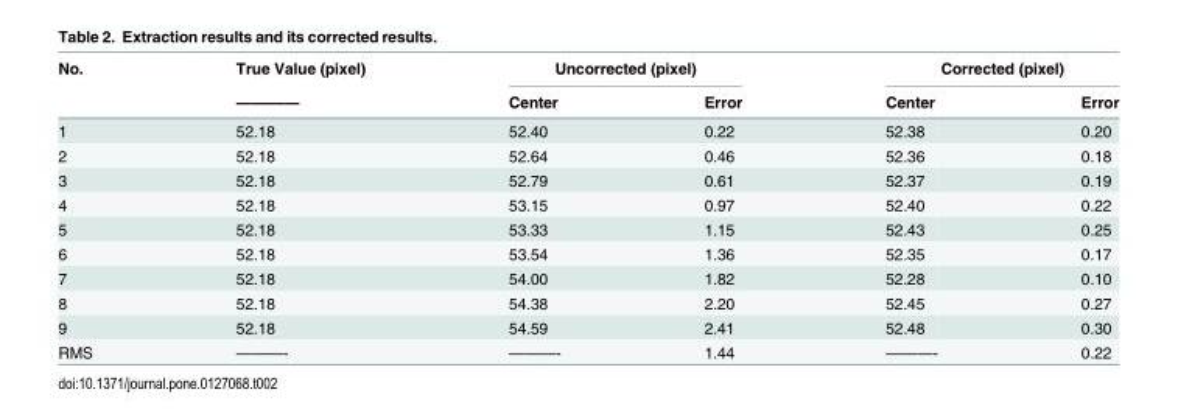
<table><thead><tr><td rowspan="2">No.</td><td rowspan="2">True Value (pixel) ————</td><td colspan="2">Uncorrected (pixel)</td><td colspan="2">Corrected (pixel)</td></tr><tr><td>Center</td><td>Error</td><td>Center</td><td>Error</td></tr></thead><tbody><tr><td>1</td><td>52.18</td><td>52.40</td><td>0.22</td><td>52.38</td><td>0.20</td></tr><tr><td>2</td><td>52.18</td><td>52.64</td><td>0.46</td><td>52.36</td><td>0.18</td></tr><tr><td>3</td><td>52.18</td><td>52.79</td><td>0.61</td><td>52.37</td><td>0.19</td></tr><tr><td>4</td><td>52.18</td><td>53.15</td><td>0.97</td><td>52.40</td><td>0.22</td></tr><tr><td>5</td><td>52.18</td><td>53.33</td><td>1.15</td><td>52.43</td><td>0.25</td></tr><tr><td>6</td><td>52.18</td><td>53.54</td><td>1.36</td><td>52.35</td><td>0.17</td></tr><tr><td>7</td><td>52.18</td><td>54.00</td><td>1.82</td><td>52.28</td><td>0.10</td></tr><tr><td>8</td><td>52.18</td><td>54.38</td><td>2.20</td><td>52.45</td><td>0.27</td></tr><tr><td>9</td><td>52.18</td><td>54.59</td><td>2.41</td><td>52.48</td><td>0.30</td></tr><tr><td>RMS</td><td>———-</td><td>———-</td><td>1.44</td><td>———-</td><td>0.22</td></tr></tbody></table>